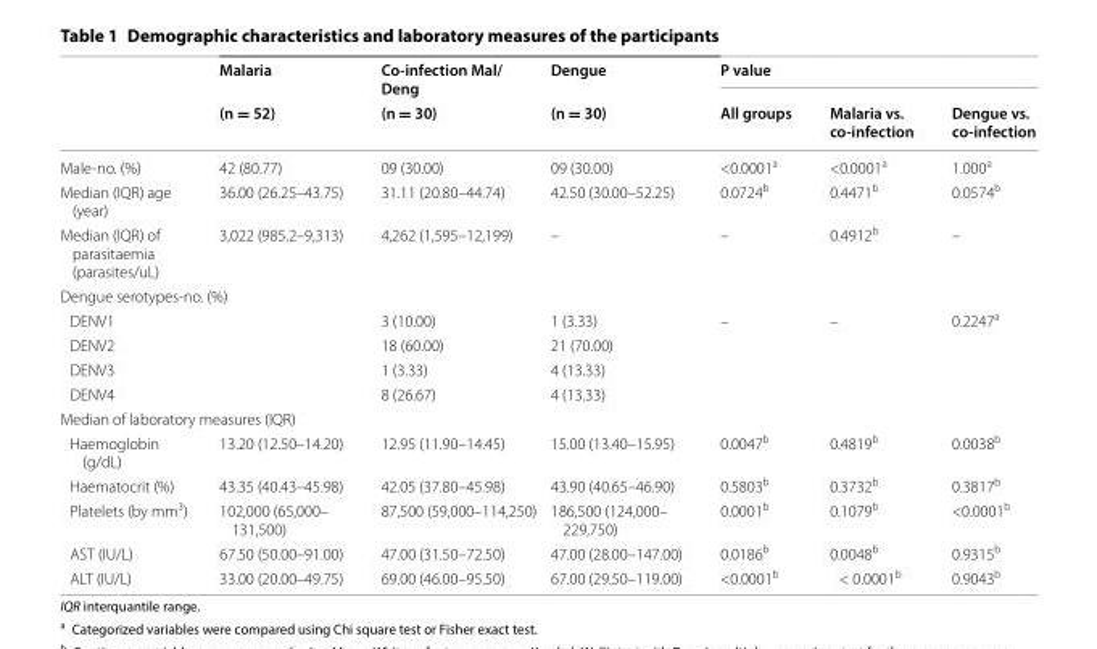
<table><thead><tr><td rowspan="2"></td><td rowspan="2">Malaria (n = 52)</td><td rowspan="2">Co-infection Mal/ Deng (n = 30)</td><td rowspan="2">Dengue (n = 30)</td><td colspan="3">P value</td></tr><tr><td>All groups</td><td>Malaria vs. co-infection</td><td>Dengue vs. co-infection</td></tr></thead><tbody><tr><td>Male‑no. (%)</td><td>42 (80.77)</td><td>09 (30.00)</td><td>09 (30.00)</td><td>&lt;0.0001<sup>a</sup></td><td>&lt;0.0001<sup>a</sup></td><td>1.000<sup>a</sup></td></tr><tr><td>Median (IQR) age (year)</td><td>36.00 (26.25–43.75)</td><td>31.11 (20.80–44.74)</td><td>42.50 (30.00–52.25)</td><td>0.0724<sup>b</sup></td><td>0.4471<sup>b</sup></td><td>0.0574<sup>b</sup></td></tr><tr><td>Median (IQR) of parasitaemia (parasites/uL)</td><td>3,022 (985.2–9,313)</td><td>4,262 (1,595–12,199)</td><td>–</td><td>–</td><td>0.4912<sup>b</sup></td><td>–</td></tr><tr><td colspan="7">Dengue serotypes‑no. (%)</td></tr><tr><td>DENV1</td><td></td><td>3 (10.00)</td><td>1 (3.33)</td><td rowspan="4">–</td><td rowspan="4">–</td><td rowspan="4">0.2247<sup>a</sup></td></tr><tr><td>DENV2</td><td></td><td>18 (60.00)</td><td>21 (70.00)</td></tr><tr><td>DENV3</td><td></td><td>1 (3.33)</td><td>4 (13.33)</td></tr><tr><td>DENV4</td><td></td><td>8 (26.67)</td><td>4 (13.33)</td></tr><tr><td colspan="7">Median of laboratory measures (IQR)</td></tr><tr><td>Haemoglobin (g/dL)</td><td>13.20 (12.50–14.20)</td><td>12.95 (11.90–14.45)</td><td>15.00 (13.40–15.95)</td><td>0.0047<sup>b</sup></td><td>0.4819<sup>b</sup></td><td>0.0038<sup>b</sup></td></tr><tr><td>Haematocrit (%)</td><td>43.35 (40.43–45.98)</td><td>42.05 (37.80–45.98)</td><td>43.90 (40.65–46.90)</td><td>0.5803<sup>b</sup></td><td>0.3732<sup>b</sup></td><td>0.3817<sup>b</sup></td></tr><tr><td>Platelets (by mm<sup>3</sup>)</td><td>102,000 (65,000– 131,500)</td><td>87,500 (59,000–114,250)</td><td>186,500 (124,000– 229,750)</td><td>0.0001<sup>b</sup></td><td>0.1079<sup>b</sup></td><td>&lt;0.0001<sup>b</sup></td></tr><tr><td>AST (IU/L)</td><td>67.50 (50.00–91.00)</td><td>47.00 (31.50–72.50)</td><td>47.00 (28.00–147.00)</td><td>0.0186<sup>b</sup></td><td>0.0048<sup>b</sup></td><td>0.9315<sup>b</sup></td></tr><tr><td>ALT (IU/L)</td><td>33.00 (20.00–49.75)</td><td>69.00 (46.00–95.50)</td><td>67.00 (29.50–119.00)</td><td>&lt;0.0001<sup>b</sup></td><td>&lt; 0.0001<sup>b</sup></td><td>0.9043<sup>b</sup></td></tr></tbody></table>